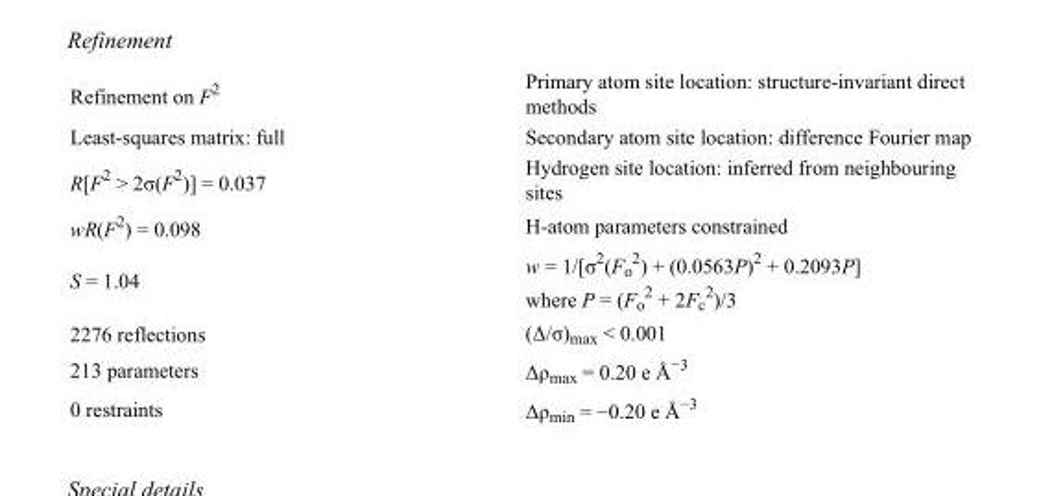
<table><tbody><tr><td>Refinement on F<sup>2</sup></td><td>Primary atom site location: structure-invariant direct methods</td></tr><tr><td>Least-squares matrix: full</td><td>Secondary atom site location: difference Fourier map</td></tr><tr><td>R[F<sup>2</sup> &gt; 2σ(F<sup>2</sup>)] = 0.037</td><td>Hydrogen site location: inferred from neighbouring sites</td></tr><tr><td>wR(F<sup>2</sup>) = 0.098</td><td>H-atom parameters constrained</td></tr><tr><td>S = 1.04</td><td>w = 1/[σ<sup>2</sup>(F<sub>o</sub> <sup>2</sup>) + (0.0563P)<sup>2</sup> + 0.2093P] where P = (F<sub>o</sub> <sup>2</sup> + 2F<sub>c</sub> <sup>2</sup>)/3</td></tr><tr><td>2276 reflections</td><td>(Δ/σ)<sub>max</sub> &lt; 0.001</td></tr><tr><td>213 parameters</td><td>Δρ<sub>max</sub> = 0.20 e Å<sup>−3</sup></td></tr><tr><td>0 restraints</td><td>Δρ<sub>min</sub> = −0.20 e Å<sup>−3</sup></td></tr></tbody></table>